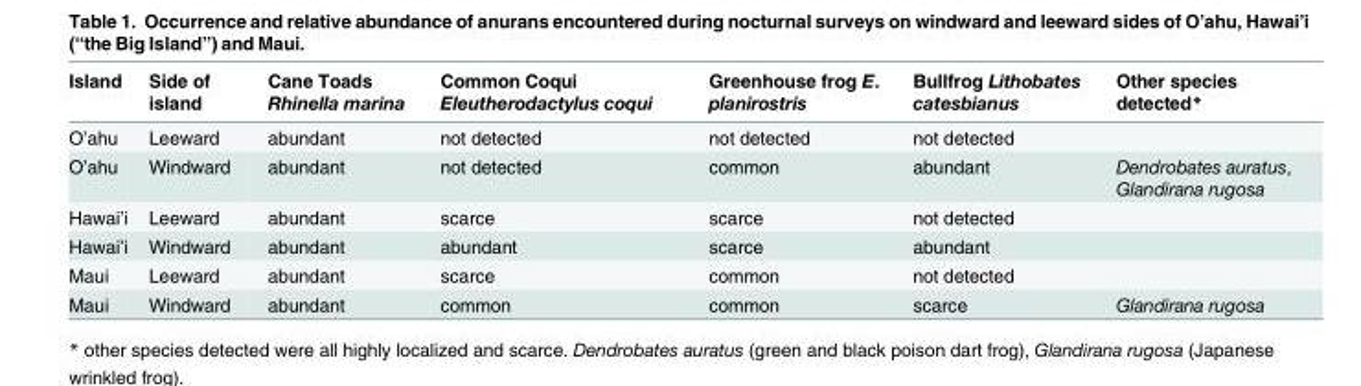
<table><thead><tr><td>Island</td><td>Side of island</td><td>Cane Toads Rhinella marina</td><td>Common Coqui Eleutherodactylus coqui</td><td>Greenhouse frog E. planirostris</td><td>Bullfrog Lithobates catesbianus</td><td>Other species detected*</td></tr></thead><tbody><tr><td>O’ahu</td><td>Leeward</td><td>abundant</td><td>not detected</td><td>not detected</td><td>not detected</td><td></td></tr><tr><td>O’ahu</td><td>Windward</td><td>abundant</td><td>not detected</td><td>common</td><td>abundant</td><td>Dendrobates auratus, Glandirana rugosa</td></tr><tr><td>Hawai’i</td><td>Leeward</td><td>abundant</td><td>scarce</td><td>scarce</td><td>not detected</td><td></td></tr><tr><td>Hawai’i</td><td>Windward</td><td>abundant</td><td>abundant</td><td>scarce</td><td>abundant</td><td></td></tr><tr><td>Maui</td><td>Leeward</td><td>abundant</td><td>scarce</td><td>common</td><td>not detected</td><td></td></tr><tr><td>Maui</td><td>Windward</td><td>abundant</td><td>common</td><td>common</td><td>scarce</td><td>Glandirana rugosa</td></tr></tbody></table>